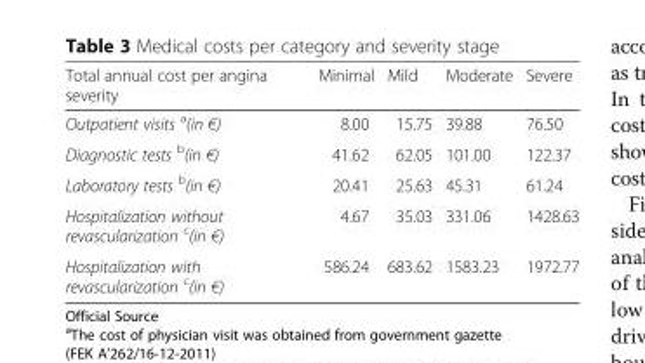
<table><thead><tr><td>Total annual cost per angina severity</td><td>Minimal</td><td>Mild</td><td>Moderate</td><td>Severe</td></tr></thead><tbody><tr><td>Outpatient visits <sup>a</sup>(in €)</td><td>8.00</td><td>15.75</td><td>39.88</td><td>76.50</td></tr><tr><td>Diagnostic tests <sup>b</sup>(in €)</td><td>41.62</td><td>62.05</td><td>101.00</td><td>122.37</td></tr><tr><td>Laboratory tests <sup>b</sup>(in €)</td><td>20.41</td><td>25.63</td><td>45.31</td><td>61.24</td></tr><tr><td>Hospitalization without revascularization <sup>c</sup>(in €)</td><td>4.67</td><td>35.03</td><td>331.06</td><td>1428.63</td></tr><tr><td>Hospitalization with revascularization <sup>c</sup>(in €)</td><td>586.24</td><td>683.62</td><td>1583.23</td><td>1972.77</td></tr></tbody></table>